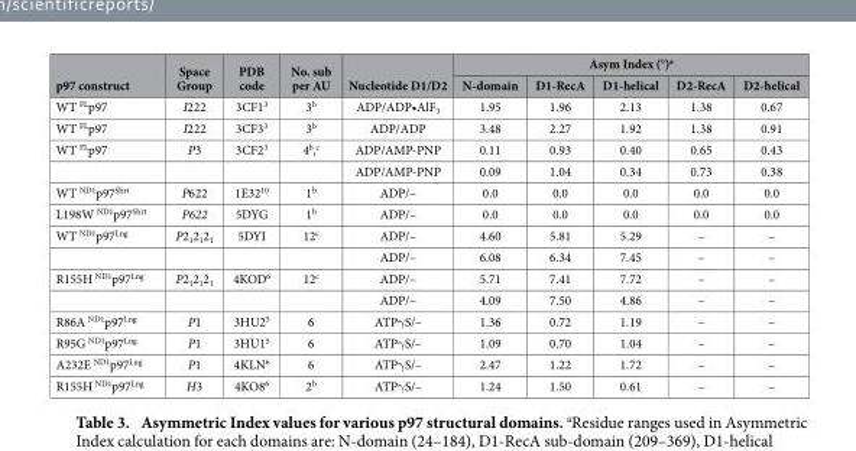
<table><thead><tr><td rowspan="2">p97 construct</td><td rowspan="2">Space Group</td><td rowspan="2">PDB code</td><td rowspan="2">No. sub per AU</td><td rowspan="2">Nucleotide D1/D2</td><td colspan="5">Asym Index (°)<sup>a</sup></td></tr><tr><td>N-domain</td><td>D1-RecA</td><td>D1-helical</td><td>D2-RecA</td><td>D2-helical</td></tr></thead><tbody><tr><td>WT <sup>FL</sup>p97</td><td>I222</td><td>3CF1<sup>3</sup></td><td>3<sup>b</sup></td><td>ADP/ADP•AlF<sub>3</sub></td><td>1.95</td><td>1.96</td><td>2.13</td><td>1.38</td><td>0.67</td></tr><tr><td>WT <sup>FL</sup>p97</td><td>I222</td><td>3CF3<sup>3</sup></td><td>3<sup>b</sup></td><td>ADP/ADP</td><td>3.48</td><td>2.27</td><td>1.92</td><td>1.38</td><td>0.91</td></tr><tr><td rowspan="2">WT <sup>FL</sup>p97</td><td>P3</td><td>3CF2<sup>3</sup></td><td>4<sup>b</sup>,<sup>c</sup></td><td>ADP/AMP-PNP</td><td>0.11</td><td>0.93</td><td>0.40</td><td>0.65</td><td>0.43</td></tr><tr><td></td><td></td><td></td><td>ADP/AMP-PNP</td><td>0.09</td><td>1.04</td><td>0.34</td><td>0.73</td><td>0.38</td></tr><tr><td>WT <sup>ND1</sup>p97<sup>Shrt</sup></td><td>P622</td><td>1E32<sup>10</sup></td><td>1<sup>b</sup></td><td>ADP/–</td><td>0.0</td><td>0.0</td><td>0.0</td><td>0.0</td><td>0.0</td></tr><tr><td>L198W <sup>ND1</sup>p97<sup>Shrt</sup></td><td>P622</td><td>5DYG</td><td>1<sup>b</sup></td><td>ADP/–</td><td>0.0</td><td>0.0</td><td>0.0</td><td>0.0</td><td>0.0</td></tr><tr><td rowspan="2">WT <sup>ND1</sup>p97<sup>Lng</sup></td><td>P2<sub>1</sub>2<sub>1</sub>2<sub>1</sub></td><td>5DYI</td><td>12<sup>c</sup></td><td>ADP/–</td><td>4.60</td><td>5.81</td><td>5.29</td><td>–</td><td>–</td></tr><tr><td></td><td></td><td></td><td>ADP/–</td><td>6.08</td><td>6.34</td><td>7.45</td><td>–</td><td>–</td></tr><tr><td rowspan="2">R155H <sup>ND1</sup>p97<sup>Lng</sup></td><td>P2<sub>1</sub>2<sub>1</sub>2<sub>1</sub></td><td>4KOD<sup>6</sup></td><td>12<sup>c</sup></td><td>ADP/–</td><td>5.71</td><td>7.41</td><td>7.72</td><td>–</td><td>–</td></tr><tr><td></td><td></td><td></td><td>ADP/–</td><td>4.09</td><td>7.50</td><td>4.86</td><td>–</td><td>–</td></tr><tr><td>R86A <sup>ND1</sup>p97<sup>Lng</sup></td><td>P1</td><td>3HU2<sup>5</sup></td><td>6</td><td>ATPγ S/–</td><td>1.36</td><td>0.72</td><td>1.19</td><td>–</td><td>–</td></tr><tr><td>R95G <sup>ND1</sup>p97<sup>Lng</sup></td><td>P1</td><td>3HU1<sup>5</sup></td><td>6</td><td>ATPγ S/–</td><td>1.09</td><td>0.70</td><td>1.04</td><td>–</td><td>–</td></tr><tr><td>A232E <sup>ND1</sup>p97<sup>Lng</sup></td><td>P1</td><td>4KLN<sup>6</sup></td><td>6</td><td>ATPγ S/–</td><td>2.47</td><td>1.22</td><td>1.72</td><td>–</td><td>–</td></tr><tr><td>R155H <sup>ND1</sup>p97<sup>Lng</sup></td><td>H3</td><td>4KO8<sup>6</sup></td><td>2<sup>b</sup></td><td>ATPγ S/–</td><td>1.24</td><td>1.50</td><td>0.61</td><td>–</td><td>–</td></tr></tbody></table>